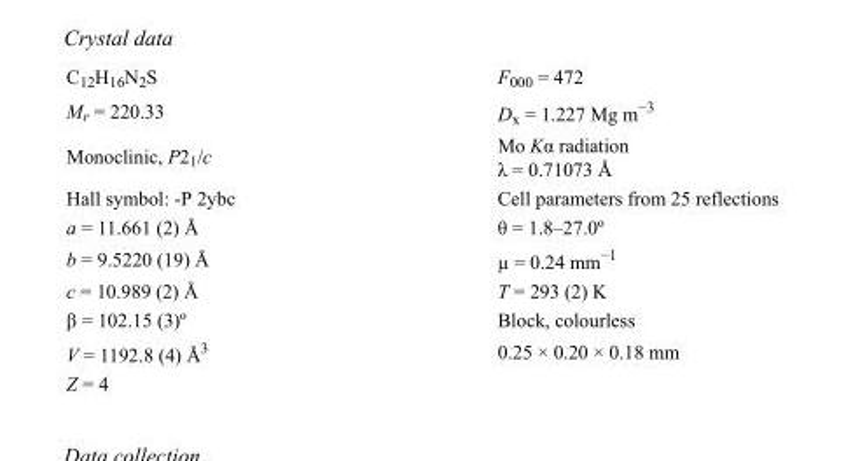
<table><tbody><tr><td>C<sub>12</sub>H<sub>16</sub>N<sub>2</sub>S</td><td>F<sub>000</sub> = 472</td></tr><tr><td>M<sub>r</sub> = 220.33</td><td>D<sub>x</sub> = 1.227 Mg m<sup>−3</sup></td></tr><tr><td>Monoclinic, P2<sub>1</sub>/c</td><td>Mo Kα radiation λ = 0.71073 Å</td></tr><tr><td>Hall symbol: -P 2ybc</td><td>Cell parameters from 25 reflections</td></tr><tr><td>a = 11.661 (2) Å</td><td>θ = 1.8–27.0º</td></tr><tr><td>b = 9.5220 (19) Å</td><td>µ = 0.24 mm<sup>−1</sup></td></tr><tr><td>c = 10.989 (2) Å</td><td>T = 293 (2) K</td></tr><tr><td>β = 102.15 (3)º</td><td>Block, colourless</td></tr><tr><td>V = 1192.8 (4) Å<sup>3</sup></td><td>0.25 × 0.20 × 0.18 mm</td></tr><tr><td>Z = 4</td><td></td></tr></tbody></table>